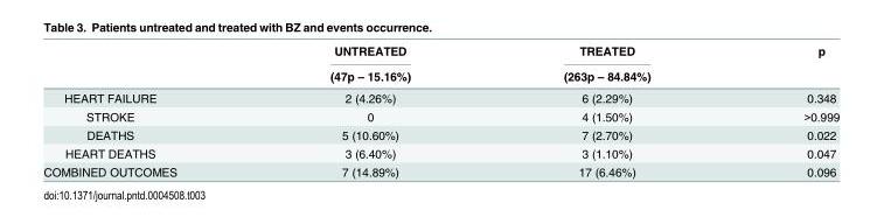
<table><thead><tr><td rowspan="2"></td><td rowspan="2">UNTREATED (47p – 15.16%)</td><td rowspan="2">TREATED (263p – 84.84%)</td><td rowspan="2">p</td></tr><tr></tr></thead><tbody><tr><td>HEART FAILURE</td><td>2 (4.26%)</td><td>6 (2.29%)</td><td>0.348</td></tr><tr><td>STROKE</td><td>0</td><td>4 (1.50%)</td><td>&gt;0.999</td></tr><tr><td>DEATHS</td><td>5 (10.60%)</td><td>7 (2.70%)</td><td>0.022</td></tr><tr><td>HEART DEATHS</td><td>3 (6.40%)</td><td>3 (1.10%)</td><td>0.047</td></tr><tr><td>COMBINED OUTCOMES</td><td>7 (14.89%)</td><td>17 (6.46%)</td><td>0.096</td></tr></tbody></table>